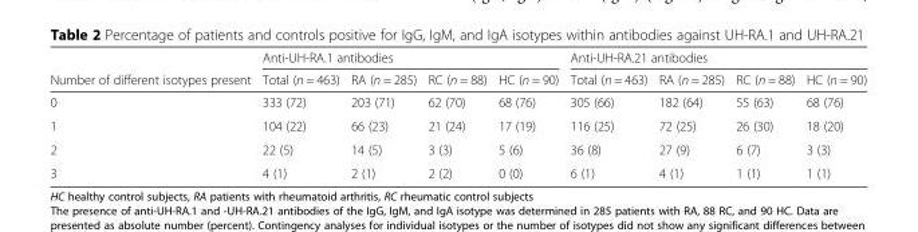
<table><thead><tr><td rowspan="2">Number of different isotypes present</td><td colspan="4">Anti-UH-RA.1 antibodies</td><td colspan="4">Anti-UH-RA.21 antibodies</td></tr><tr><td>Total (n = 463)</td><td>RA (n = 285)</td><td>RC (n = 88)</td><td>HC (n = 90)</td><td>Total (n = 463)</td><td>RA (n = 285)</td><td>RC (n = 88)</td><td>HC (n = 90)</td></tr></thead><tbody><tr><td>0</td><td>333 (72)</td><td>203 (71)</td><td>62 (70)</td><td>68 (76)</td><td>305 (66)</td><td>182 (64)</td><td>55 (63)</td><td>68 (76)</td></tr><tr><td>1</td><td>104 (22)</td><td>66 (23)</td><td>21 (24)</td><td>17 (19)</td><td>116 (25)</td><td>72 (25)</td><td>26 (30)</td><td>18 (20)</td></tr><tr><td>2</td><td>22 (5)</td><td>14 (5)</td><td>3 (3)</td><td>5 (6)</td><td>36 (8)</td><td>27 (9)</td><td>6 (7)</td><td>3 (3)</td></tr><tr><td>3</td><td>4 (1)</td><td>2 (1)</td><td>2 (2)</td><td>0 (0)</td><td>6 (1)</td><td>4 (1)</td><td>1 (1)</td><td>1 (1)</td></tr></tbody></table>